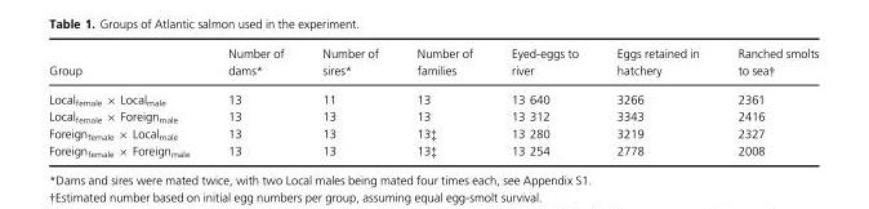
<table><thead><tr><td>Group</td><td>Number of dams*</td><td>Number of sires*</td><td>Number of families</td><td>Eyed-eggs to river</td><td>Eggs retained in hatchery</td><td>Ranched smolts to sea†</td></tr></thead><tbody><tr><td>Local<sub>female</sub> × Local<sub>male</sub></td><td>13</td><td>11</td><td>13</td><td>13 640</td><td>3266</td><td>2361</td></tr><tr><td>Local<sub>female</sub> × Foreign<sub>male</sub></td><td>13</td><td>13</td><td>13</td><td>13 312</td><td>3343</td><td>2416</td></tr><tr><td>Foreign<sub>female</sub> × Local<sub>male</sub></td><td>13</td><td>13</td><td>13‡</td><td>13 280</td><td>3219</td><td>2327</td></tr><tr><td>Foreign<sub>female</sub> × Foreign<sub>male</sub></td><td>13</td><td>13</td><td>13‡</td><td>13 254</td><td>2778</td><td>2008</td></tr></tbody></table>